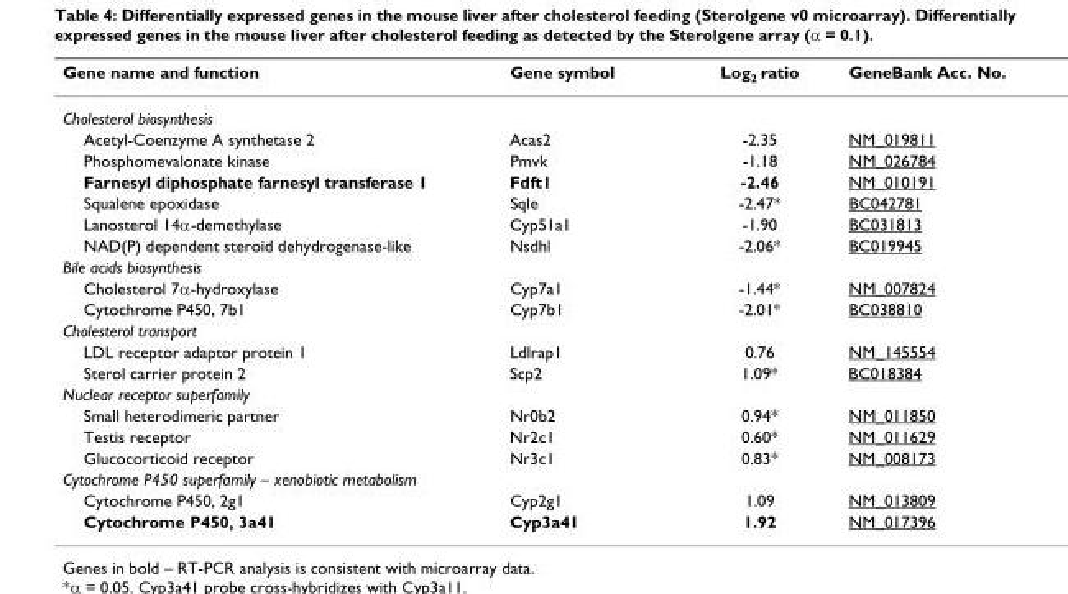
<table><thead><tr><td>Gene name and function</td><td>Gene symbol</td><td>Log<sub>2</sub> ratio</td><td>GeneBank Acc. No.</td></tr></thead><tbody><tr><td colspan="4">Cholesterol biosynthesis</td></tr><tr><td>Acetyl-Coenzyme A synthetase 2</td><td>Acas2</td><td>-2.35</td><td>NM_019811</td></tr><tr><td>Phosphomevalonate kinase</td><td>Pmvk</td><td>-1.18</td><td>NM_026784</td></tr><tr><td>Farnesyl diphosphate farnesyl transferase 1</td><td>Fdft1</td><td>-2.46</td><td>NM_010191</td></tr><tr><td>Squalene epoxidase</td><td>Sqle</td><td>-2.47*</td><td>BC042781</td></tr><tr><td>Lanosterol 14α-demethylase</td><td>Cyp51a1</td><td>-1.90</td><td>BC031813</td></tr><tr><td>NAD(P) dependent steroid dehydrogenase-like</td><td>Nsdhl</td><td>-2.06*</td><td>BC019945</td></tr><tr><td colspan="4">Bile acids biosynthesis</td></tr><tr><td>Cholesterol 7α-hydroxylase</td><td>Cyp7a1</td><td>-1.44*</td><td>NM_007824</td></tr><tr><td>Cytochrome P450, 7b1</td><td>Cyp7b1</td><td>-2.01*</td><td>BC038810</td></tr><tr><td colspan="4">Cholesterol transport</td></tr><tr><td>LDL receptor adaptor protein 1</td><td>Ldlrap1</td><td>0.76</td><td>NM_145554</td></tr><tr><td>Sterol carrier protein 2</td><td>Scp2</td><td>1.09*</td><td>BC018384</td></tr><tr><td colspan="4">Nuclear receptor superfamily</td></tr><tr><td>Small heterodimeric partner</td><td>Nr0b2</td><td>0.94*</td><td>NM_011850</td></tr><tr><td>Testis receptor</td><td>Nr2c1</td><td>0.60*</td><td>NM_011629</td></tr><tr><td>Glucocorticoid receptor</td><td>Nr3c1</td><td>0.83*</td><td>NM_008173</td></tr><tr><td colspan="4">Cytochrome P450 superfamily – xenobiotic metabolism</td></tr><tr><td>Cytochrome P450, 2g1</td><td>Cyp2g1</td><td>1.09</td><td>NM_013809</td></tr><tr><td>Cytochrome P450, 3a41</td><td>Cyp3a41</td><td>1.92</td><td>NM_017396</td></tr></tbody></table>